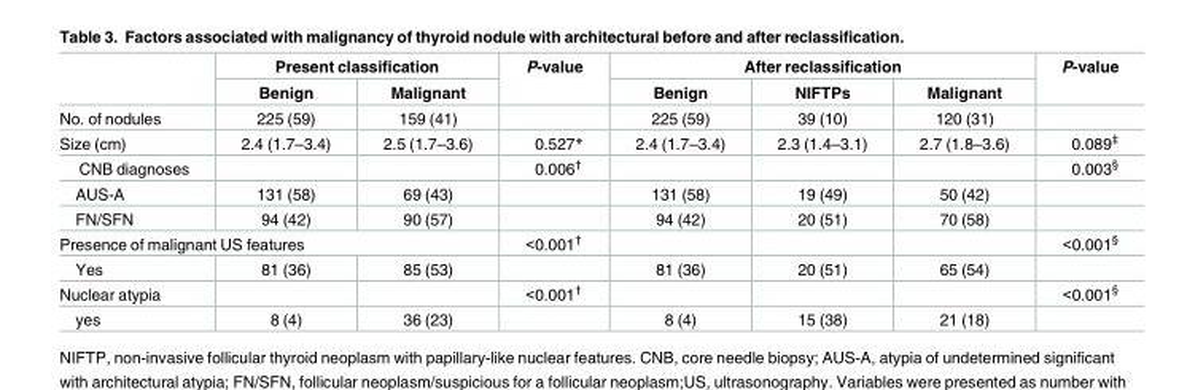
<table><thead><tr><td rowspan="2"></td><td colspan="2">Present classification</td><td rowspan="2">P-value</td><td colspan="3">After reclassification</td><td rowspan="2">P-value</td></tr><tr><td>Benign</td><td>Malignant</td><td>Benign</td><td>NIFTPs</td><td>Malignant</td></tr></thead><tbody><tr><td>No. of nodules</td><td>225 (59)</td><td>159 (41)</td><td></td><td>225 (59)</td><td>39 (10)</td><td>120 (31)</td><td></td></tr><tr><td>Size (cm)</td><td>2.4 (1.7–3.4)</td><td>2.5 (1.7–3.6)</td><td>0.527*</td><td>2.4 (1.7–3.4)</td><td>2.3 (1.4–3.1)</td><td>2.7 (1.8–3.6)</td><td>0.089<sup>‡</sup></td></tr><tr><td>CNB diagnoses</td><td></td><td></td><td>0.006<sup>†</sup></td><td></td><td></td><td></td><td>0.003<sup>§</sup></td></tr><tr><td>AUS-A</td><td>131 (58)</td><td>69 (43)</td><td></td><td>131 (58)</td><td>19 (49)</td><td>50 (42)</td><td></td></tr><tr><td>FN/SFN</td><td>94 (42)</td><td>90 (57)</td><td></td><td>94 (42)</td><td>20 (51)</td><td>70 (58)</td><td></td></tr><tr><td colspan="3">Presence of malignant US features</td><td>&lt;0.001<sup>†</sup></td><td></td><td></td><td></td><td>&lt;0.001<sup>§</sup></td></tr><tr><td>Yes</td><td>81 (36)</td><td>85 (53)</td><td></td><td>81 (36)</td><td>20 (51)</td><td>65 (54)</td><td></td></tr><tr><td>Nuclear atypia</td><td></td><td></td><td>&lt;0.001<sup>†</sup></td><td></td><td></td><td></td><td>&lt;0.001<sup>§</sup></td></tr><tr><td>yes</td><td>8 (4)</td><td>36 (23)</td><td></td><td>8 (4)</td><td>15 (38)</td><td>21 (18)</td><td></td></tr></tbody></table>